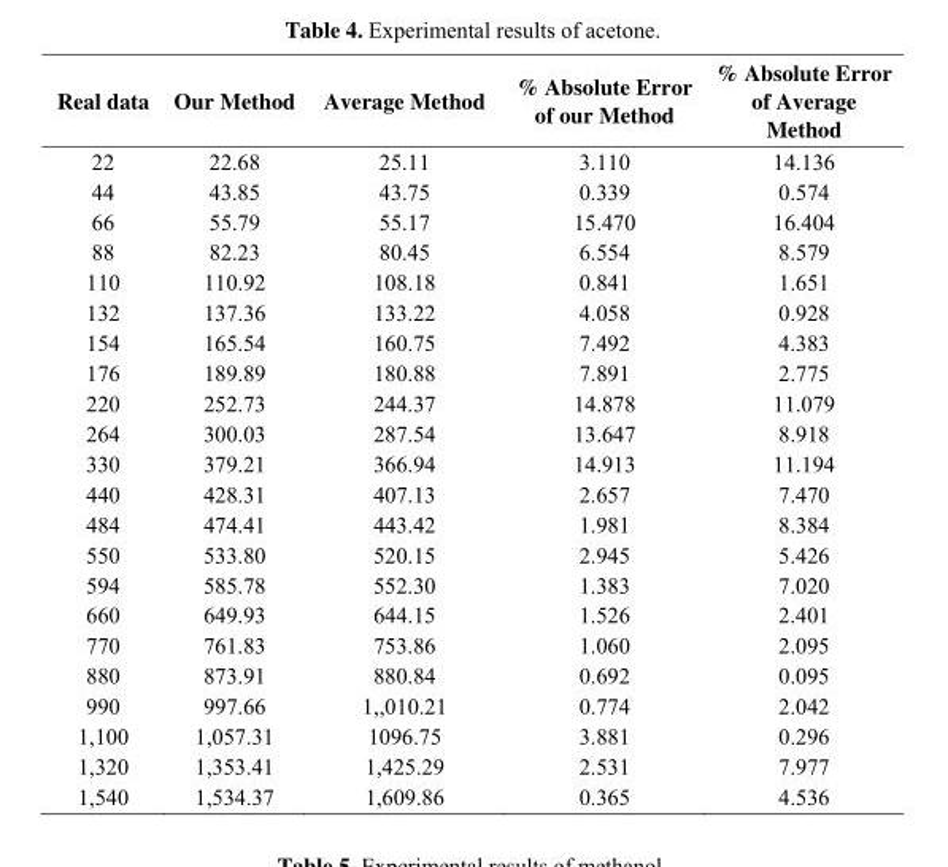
<table><thead><tr><td>Real data</td><td>Our Method</td><td>Average Method</td><td>% Absolute Error of our Method</td><td>% Absolute Error of Average Method</td></tr></thead><tbody><tr><td>22</td><td>22.68</td><td>25.11</td><td>3.110</td><td>14.136</td></tr><tr><td>44</td><td>43.85</td><td>43.75</td><td>0.339</td><td>0.574</td></tr><tr><td>66</td><td>55.79</td><td>55.17</td><td>15.470</td><td>16.404</td></tr><tr><td>88</td><td>82.23</td><td>80.45</td><td>6.554</td><td>8.579</td></tr><tr><td>110</td><td>110.92</td><td>108.18</td><td>0.841</td><td>1.651</td></tr><tr><td>132</td><td>137.36</td><td>133.22</td><td>4.058</td><td>0.928</td></tr><tr><td>154</td><td>165.54</td><td>160.75</td><td>7.492</td><td>4.383</td></tr><tr><td>176</td><td>189.89</td><td>180.88</td><td>7.891</td><td>2.775</td></tr><tr><td>220</td><td>252.73</td><td>244.37</td><td>14.878</td><td>11.079</td></tr><tr><td>264</td><td>300.03</td><td>287.54</td><td>13.647</td><td>8.918</td></tr><tr><td>330</td><td>379.21</td><td>366.94</td><td>14.913</td><td>11.194</td></tr><tr><td>440</td><td>428.31</td><td>407.13</td><td>2.657</td><td>7.470</td></tr><tr><td>484</td><td>474.41</td><td>443.42</td><td>1.981</td><td>8.384</td></tr><tr><td>550</td><td>533.80</td><td>520.15</td><td>2.945</td><td>5.426</td></tr><tr><td>594</td><td>585.78</td><td>552.30</td><td>1.383</td><td>7.020</td></tr><tr><td>660</td><td>649.93</td><td>644.15</td><td>1.526</td><td>2.401</td></tr><tr><td>770</td><td>761.83</td><td>753.86</td><td>1.060</td><td>2.095</td></tr><tr><td>880</td><td>873.91</td><td>880.84</td><td>0.692</td><td>0.095</td></tr><tr><td>990</td><td>997.66</td><td>1,,010.21</td><td>0.774</td><td>2.042</td></tr><tr><td>1,100</td><td>1,057.31</td><td>1096.75</td><td>3.881</td><td>0.296</td></tr><tr><td>1,320</td><td>1,353.41</td><td>1,425.29</td><td>2.531</td><td>7.977</td></tr><tr><td>1,540</td><td>1,534.37</td><td>1,609.86</td><td>0.365</td><td>4.536</td></tr></tbody></table>